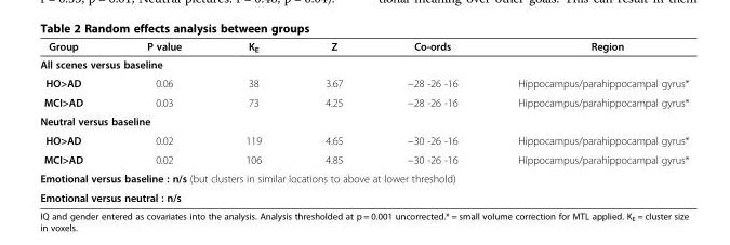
<table><thead><tr><td>Group</td><td>P value</td><td>K<sub>E</sub></td><td>Z</td><td>Co-ords</td><td>Region</td></tr></thead><tbody><tr><td colspan="6">All scenes versus baseline</td></tr><tr><td>HO&gt;AD</td><td>0.06</td><td>38</td><td>3.67</td><td>−28 -26 -16</td><td>Hippocampus/parahippocampal gyrus*</td></tr><tr><td>MCI&gt;AD</td><td>0.03</td><td>73</td><td>4.25</td><td>−28 -26 -16</td><td>Hippocampus/parahippocampal gyrus*</td></tr><tr><td colspan="6">Neutral versus baseline</td></tr><tr><td>HO&gt;AD</td><td>0.02</td><td>119</td><td>4.65</td><td>−30 -26 -16</td><td>Hippocampus/parahippocampal gyrus*</td></tr><tr><td>MCI&gt;AD</td><td>0.02</td><td>106</td><td>4.85</td><td>−30 -26 -16</td><td>Hippocampus/parahippocampal gyrus*</td></tr><tr><td colspan="6">Emotional versus baseline : n/s (but clusters in similar locations to above at lower threshold)</td></tr><tr><td colspan="6">Emotional versus neutral : n/s</td></tr></tbody></table>